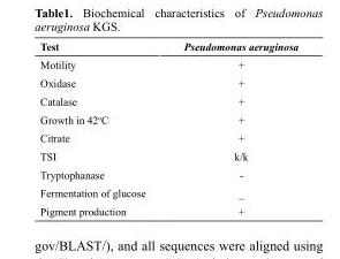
<table><thead><tr><td>Test</td><td>Pseudomonas aeruginosa</td></tr></thead><tbody><tr><td>Motility</td><td>+</td></tr><tr><td>Oxidase</td><td>+</td></tr><tr><td>Catalase</td><td>+</td></tr><tr><td>Growth in 42°C</td><td>+</td></tr><tr><td>Citrate</td><td>+</td></tr><tr><td>TSI</td><td>k/k</td></tr><tr><td>Tryptophanase</td><td>-</td></tr><tr><td>Fermentation of glucose</td><td>_</td></tr><tr><td>Pigment production</td><td>+</td></tr></tbody></table>